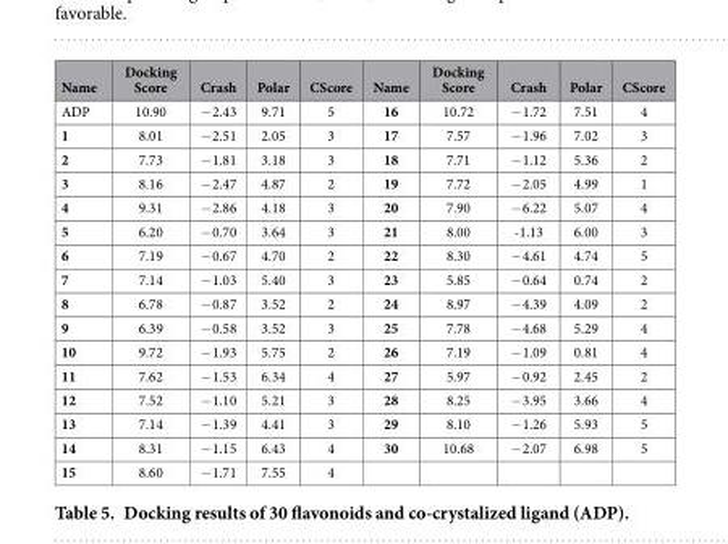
<table><thead><tr><td>Name</td><td>Docking Score</td><td>Crash</td><td>Polar</td><td>CScore</td><td>Name</td><td>Docking Score</td><td>Crash</td><td>Polar</td><td>CScore</td></tr></thead><tbody><tr><td>ADP</td><td>10.90</td><td>− 2.43</td><td>9.71</td><td>5</td><td>16</td><td>10.72</td><td>− 1.72</td><td>7.51</td><td>4</td></tr><tr><td>1</td><td>8.01</td><td>− 2.51</td><td>2.05</td><td>3</td><td>17</td><td>7.57</td><td>− 1.96</td><td>7.02</td><td>3</td></tr><tr><td>2</td><td>7.73</td><td>− 1.81</td><td>3.18</td><td>3</td><td>18</td><td>7.71</td><td>− 1.12</td><td>5.36</td><td>2</td></tr><tr><td>3</td><td>8.16</td><td>− 2.47</td><td>4.87</td><td>2</td><td>19</td><td>7.72</td><td>− 2.05</td><td>4.99</td><td>1</td></tr><tr><td>4</td><td>9.31</td><td>− 2.86</td><td>4.18</td><td>3</td><td>20</td><td>7.90</td><td>− 6.22</td><td>5.07</td><td>4</td></tr><tr><td>5</td><td>6.20</td><td>− 0.70</td><td>3.64</td><td>3</td><td>21</td><td>8.00</td><td>-1.13</td><td>6.00</td><td>3</td></tr><tr><td>6</td><td>7.19</td><td>− 0.67</td><td>4.70</td><td>2</td><td>22</td><td>8.30</td><td>− 4.61</td><td>4.74</td><td>5</td></tr><tr><td>7</td><td>7.14</td><td>− 1.03</td><td>5.40</td><td>3</td><td>23</td><td>5.85</td><td>− 0.64</td><td>0.74</td><td>2</td></tr><tr><td>8</td><td>6.78</td><td>− 0.87</td><td>3.52</td><td>2</td><td>24</td><td>8.97</td><td>− 4.39</td><td>4.09</td><td>2</td></tr><tr><td>9</td><td>6.39</td><td>− 0.58</td><td>3.52</td><td>3</td><td>25</td><td>7.78</td><td>− 4.68</td><td>5.29</td><td>4</td></tr><tr><td>10</td><td>9.72</td><td>− 1.93</td><td>5.75</td><td>2</td><td>26</td><td>7.19</td><td>− 1.09</td><td>0.81</td><td>4</td></tr><tr><td>11</td><td>7.62</td><td>− 1.53</td><td>6.34</td><td>4</td><td>27</td><td>5.97</td><td>− 0.92</td><td>2.45</td><td>2</td></tr><tr><td>12</td><td>7.52</td><td>− 1.10</td><td>5.21</td><td>3</td><td>28</td><td>8.25</td><td>− 3.95</td><td>3.66</td><td>4</td></tr><tr><td>13</td><td>7.14</td><td>− 1.39</td><td>4.41</td><td>3</td><td>29</td><td>8.10</td><td>− 1.26</td><td>5.93</td><td>5</td></tr><tr><td>14</td><td>8.31</td><td>− 1.15</td><td>6.43</td><td>4</td><td>30</td><td>10.68</td><td>− 2.07</td><td>6.98</td><td>5</td></tr><tr><td>15</td><td>8.60</td><td>− 1.71</td><td>7.55</td><td>4</td><td></td><td></td><td></td><td></td><td></td></tr></tbody></table>